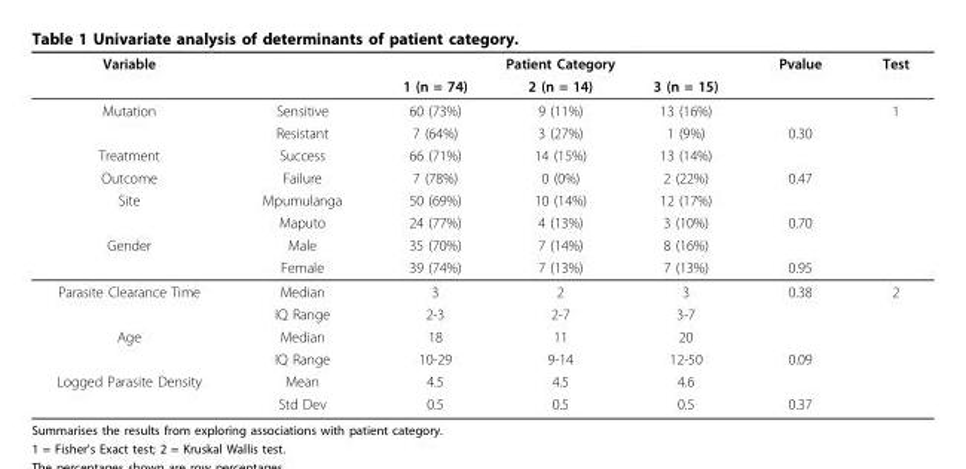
<table><thead><tr><td rowspan="2">Variable</td><td rowspan="2"></td><td colspan="3">Patient Category</td><td rowspan="2">Pvalue</td><td rowspan="2">Test</td></tr><tr><td>1 (n = 74)</td><td>2 (n = 14)</td><td>3 (n = 15)</td></tr></thead><tbody><tr><td rowspan="2">Mutation</td><td>Sensitive</td><td>60 (73%)</td><td>9 (11%)</td><td>13 (16%)</td><td></td><td>1</td></tr><tr><td>Resistant</td><td>7 (64%)</td><td>3 (27%)</td><td>1 (9%)</td><td>0.30</td><td></td></tr><tr><td>Treatment</td><td>Success</td><td>66 (71%)</td><td>14 (15%)</td><td>13 (14%)</td><td></td><td></td></tr><tr><td>Outcome</td><td>Failure</td><td>7 (78%)</td><td>0 (0%)</td><td>2 (22%)</td><td>0.47</td><td></td></tr><tr><td rowspan="2">Site</td><td>Mpumulanga</td><td>50 (69%)</td><td>10 (14%)</td><td>12 (17%)</td><td></td><td></td></tr><tr><td>Maputo</td><td>24 (77%)</td><td>4 (13%)</td><td>3 (10%)</td><td>0.70</td><td></td></tr><tr><td rowspan="2">Gender</td><td>Male</td><td>35 (70%)</td><td>7 (14%)</td><td>8 (16%)</td><td></td><td></td></tr><tr><td>Female</td><td>39 (74%)</td><td>7 (13%)</td><td>7 (13%)</td><td>0.95</td><td></td></tr><tr><td rowspan="2">Parasite Clearance Time</td><td>Median</td><td>3</td><td>2</td><td>3</td><td>0.38</td><td>2</td></tr><tr><td>IQ Range</td><td>2-3</td><td>2-7</td><td>3-7</td><td></td><td></td></tr><tr><td rowspan="2">Age</td><td>Median</td><td>18</td><td>11</td><td>20</td><td></td><td></td></tr><tr><td>IQ Range</td><td>10-29</td><td>9-14</td><td>12-50</td><td>0.09</td><td></td></tr><tr><td rowspan="2">Logged Parasite Density</td><td>Mean</td><td>4.5</td><td>4.5</td><td>4.6</td><td></td><td></td></tr><tr><td>Std Dev</td><td>0.5</td><td>0.5</td><td>0.5</td><td>0.37</td><td></td></tr></tbody></table>